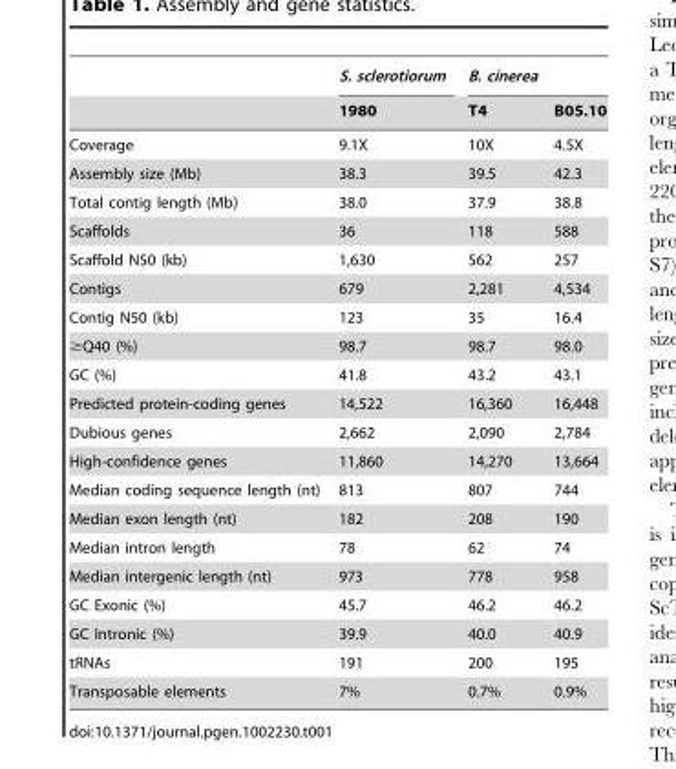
<table><thead><tr><td rowspan="2"></td><td rowspan="2">S. sclerotiorum 1980</td><td colspan="2">B. cinerea</td></tr><tr><td>T4</td><td>B05.10</td></tr></thead><tbody><tr><td>Coverage</td><td>9.1X</td><td>10X</td><td>4.5X</td></tr><tr><td>Assembly size (Mb)</td><td>38.3</td><td>39.5</td><td>42.3</td></tr><tr><td>Total contig length (Mb)</td><td>38.0</td><td>37.9</td><td>38.8</td></tr><tr><td>Scaffolds</td><td>36</td><td>118</td><td>588</td></tr><tr><td>Scaffold N50 (kb)</td><td>1,630</td><td>562</td><td>257</td></tr><tr><td>Contigs</td><td>679</td><td>2,281</td><td>4,534</td></tr><tr><td>Contig N50 (kb)</td><td>123</td><td>35</td><td>16.4</td></tr><tr><td>≥Q40 (%)</td><td>98.7</td><td>98.7</td><td>98.0</td></tr><tr><td>GC (%)</td><td>41.8</td><td>43.2</td><td>43.1</td></tr><tr><td>Predicted protein-coding genes</td><td>14,522</td><td>16,360</td><td>16,448</td></tr><tr><td>Dubious genes</td><td>2,662</td><td>2,090</td><td>2,784</td></tr><tr><td>High-confidence genes</td><td>11,860</td><td>14,270</td><td>13,664</td></tr><tr><td>Median coding sequence length (nt)</td><td>813</td><td>807</td><td>744</td></tr><tr><td>Median exon length (nt)</td><td>182</td><td>208</td><td>190</td></tr><tr><td>Median intron length</td><td>78</td><td>62</td><td>74</td></tr><tr><td>Median intergenic length (nt)</td><td>973</td><td>778</td><td>958</td></tr><tr><td>GC Exonic (%)</td><td>45.7</td><td>46.2</td><td>46.2</td></tr><tr><td>GC Intronic (%)</td><td>39.9</td><td>40.0</td><td>40.9</td></tr><tr><td>tRNAs</td><td>191</td><td>200</td><td>195</td></tr><tr><td>Transposable elements</td><td>7%</td><td>0.7%</td><td>0.9%</td></tr></tbody></table>